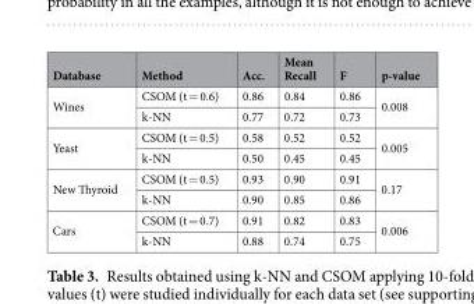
<table><thead><tr><td>Database</td><td>Method</td><td>Acc.</td><td>Mean Recall</td><td>F</td><td>p-value</td></tr></thead><tbody><tr><td rowspan="2">Wines</td><td>CSOM (t = 0.6)</td><td>0.86</td><td>0.84</td><td>0.86</td><td rowspan="2">0.008</td></tr><tr><td>k-NN</td><td>0.77</td><td>0.72</td><td>0.73</td></tr><tr><td rowspan="2">Yeast</td><td>CSOM (t = 0.5)</td><td>0.58</td><td>0.52</td><td>0.52</td><td rowspan="2">0.005</td></tr><tr><td>k-NN</td><td>0.50</td><td>0.45</td><td>0.45</td></tr><tr><td rowspan="2">New Thyroid</td><td>CSOM (t = 0.5)</td><td>0.93</td><td>0.90</td><td>0.91</td><td rowspan="2">0.17</td></tr><tr><td>k-NN</td><td>0.90</td><td>0.85</td><td>0.86</td></tr><tr><td rowspan="2">Cars</td><td>CSOM (t = 0.7)</td><td>0.91</td><td>0.82</td><td>0.83</td><td rowspan="2">0.006</td></tr><tr><td>k-NN</td><td>0.88</td><td>0.74</td><td>0.75</td></tr></tbody></table>